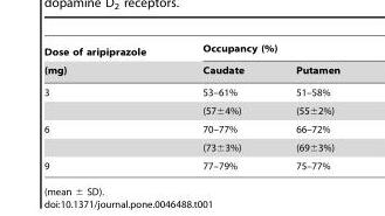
<table><thead><tr><td rowspan="2">Dose of aripiprazole (mg)</td><td colspan="2">Occupancy (%)</td></tr><tr><td>Caudate</td><td>Putamen</td></tr></thead><tbody><tr><td rowspan="2">3</td><td>53–61%</td><td>51–58%</td></tr><tr><td>(57±4%)</td><td>(55±2%)</td></tr><tr><td rowspan="2">6</td><td>70–77%</td><td>66–72%</td></tr><tr><td>(73±3%)</td><td>(69±3%)</td></tr><tr><td>9</td><td>77–79%</td><td>75–77%</td></tr></tbody></table>